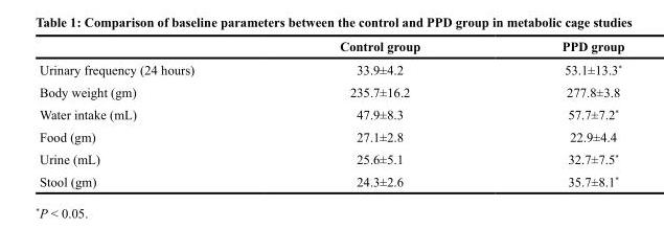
<table><thead><tr><td></td><td>Control group</td><td>PPD group</td></tr></thead><tbody><tr><td>Urinary frequency (24 hours)</td><td>33.9±4.2</td><td>53.1±13.3*</td></tr><tr><td>Body weight (gm)</td><td>235.7±16.2</td><td>277.8±3.8</td></tr><tr><td>Water intake (mL)</td><td>47.9±8.3</td><td>57.7±7.2*</td></tr><tr><td>Food (gm)</td><td>27.1±2.8</td><td>22.9±4.4</td></tr><tr><td>Urine (mL)</td><td>25.6±5.1</td><td>32.7±7.5*</td></tr><tr><td>Stool (gm)</td><td>24.3±2.6</td><td>35.7±8.1*</td></tr></tbody></table>